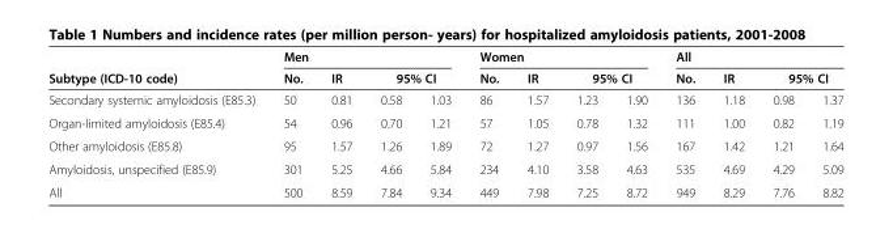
<table><thead><tr><td rowspan="3">Subtype (ICD-10 code) Secondary systemic amyloidosis (E85.3)</td><td colspan="4">Men</td><td colspan="4">Women</td><td colspan="4">All</td></tr><tr><td rowspan="2">No. 50</td><td rowspan="2">IR 0.81</td><td colspan="2">95% CI</td><td rowspan="2">No. 86</td><td rowspan="2">IR 1.57</td><td colspan="2">95% CI</td><td rowspan="2">No. 136</td><td rowspan="2">IR 1.18</td><td colspan="2">95% CI</td></tr><tr><td>0.58</td><td>1.03</td><td>1.23</td><td>1.90</td><td>0.98</td><td>1.37</td></tr></thead><tbody><tr><td>Organ-limited amyloidosis (E85.4)</td><td>54</td><td>0.96</td><td>0.70</td><td>1.21</td><td>57</td><td>1.05</td><td>0.78</td><td>1.32</td><td>111</td><td>1.00</td><td>0.82</td><td>1.19</td></tr><tr><td>Other amyloidosis (E85.8)</td><td>95</td><td>1.57</td><td>1.26</td><td>1.89</td><td>72</td><td>1.27</td><td>0.97</td><td>1.56</td><td>167</td><td>1.42</td><td>1.21</td><td>1.64</td></tr><tr><td>Amyloidosis, unspecified (E85.9)</td><td>301</td><td>5.25</td><td>4.66</td><td>5.84</td><td>234</td><td>4.10</td><td>3.58</td><td>4.63</td><td>535</td><td>4.69</td><td>4.29</td><td>5.09</td></tr><tr><td>All</td><td>500</td><td>8.59</td><td>7.84</td><td>9.34</td><td>449</td><td>7.98</td><td>7.25</td><td>8.72</td><td>949</td><td>8.29</td><td>7.76</td><td>8.82</td></tr></tbody></table>